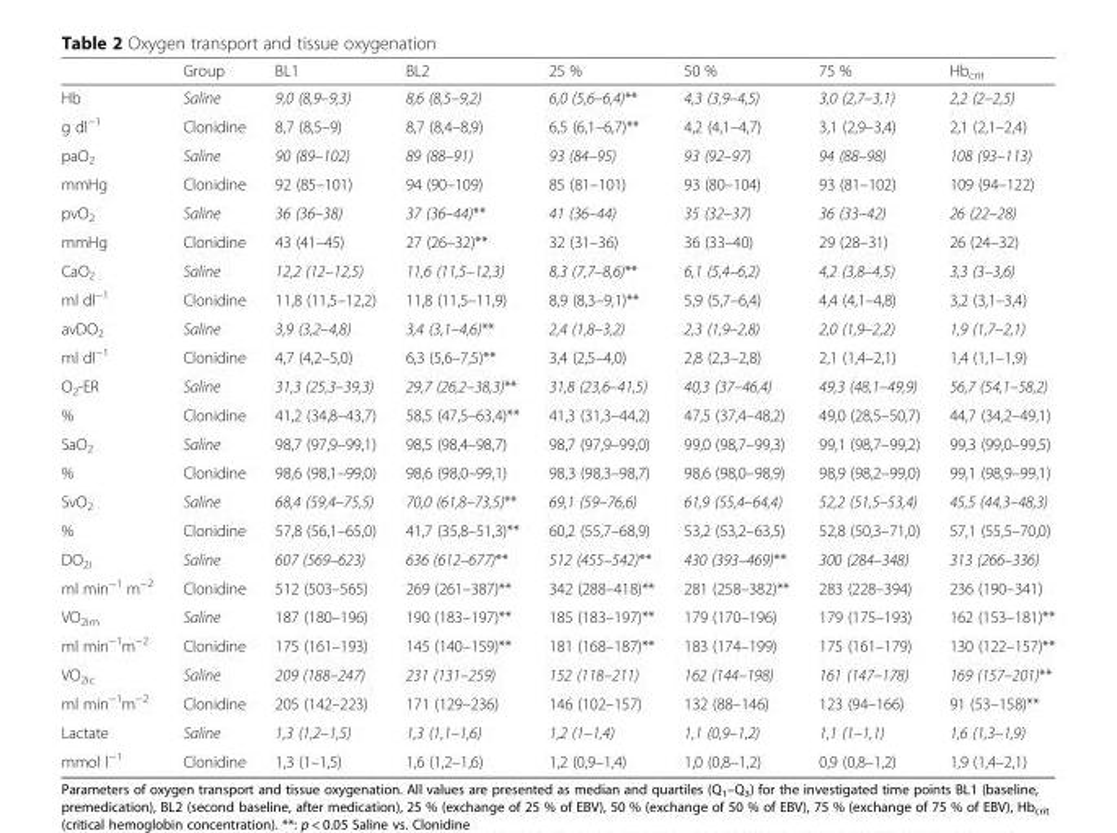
<table><thead><tr><td></td><td>Group</td><td>BL1</td><td>BL2</td><td>25 %</td><td>50 %</td><td>75 %</td><td>Hb<sub>crit</sub></td></tr></thead><tbody><tr><td>Hb</td><td>Saline</td><td>9,0 (8,9–9,3)</td><td>8,6 (8,5–9,2)</td><td>6,0 (5,6–6,4)**</td><td>4,3 (3,9–4,5)</td><td>3,0 (2,7–3,1)</td><td>2,2 (2–2,5)</td></tr><tr><td>g dl<sup>−1</sup></td><td>Clonidine</td><td>8,7 (8,5–9)</td><td>8,7 (8,4–8,9)</td><td>6,5 (6,1–6,7)**</td><td>4,2 (4,1–4,7)</td><td>3,1 (2,9–3,4)</td><td>2,1 (2,1–2,4)</td></tr><tr><td>paO<sub>2</sub></td><td>Saline</td><td>90 (89–102)</td><td>89 (88–91)</td><td>93 (84–95)</td><td>93 (92–97)</td><td>94 (88–98)</td><td>108 (93–113)</td></tr><tr><td>mmHg</td><td>Clonidine</td><td>92 (85–101)</td><td>94 (90–109)</td><td>85 (81–101)</td><td>93 (80–104)</td><td>93 (81–102)</td><td>109 (94–122)</td></tr><tr><td>pvO<sub>2</sub></td><td>Saline</td><td>36 (36–38)</td><td>37 (36–44)**</td><td>41 (36–44)</td><td>35 (32–37)</td><td>36 (33–42)</td><td>26 (22–28)</td></tr><tr><td>mmHg</td><td>Clonidine</td><td>43 (41–45)</td><td>27 (26–32)**</td><td>32 (31–36)</td><td>36 (33–40)</td><td>29 (28–31)</td><td>26 (24–32)</td></tr><tr><td>CaO<sub>2</sub></td><td>Saline</td><td>12,2 (12–12,5)</td><td>11,6 (11,5–12,3)</td><td>8,3 (7,7–8,6)**</td><td>6,1 (5,4–6,2)</td><td>4,2 (3,8–4,5)</td><td>3,3 (3–3,6)</td></tr><tr><td>ml dl<sup>−1</sup></td><td>Clonidine</td><td>11,8 (11,5–12,2)</td><td>11,8 (11,5–11,9)</td><td>8,9 (8,3–9,1)**</td><td>5,9 (5,7–6,4)</td><td>4,4 (4,1–4,8)</td><td>3,2 (3,1–3,4)</td></tr><tr><td>avDO<sub>2</sub></td><td>Saline</td><td>3,9 (3,2–4,8)</td><td>3,4 (3,1–4,6)**</td><td>2,4 (1,8–3,2)</td><td>2,3 (1,9–2,8)</td><td>2,0 (1,9–2,2)</td><td>1,9 (1,7–2,1)</td></tr><tr><td>ml dl<sup>−1</sup></td><td>Clonidine</td><td>4,7 (4,2–5,0)</td><td>6,3 (5,6–7,5)**</td><td>3,4 (2,5–4,0)</td><td>2,8 (2,3–2,8)</td><td>2,1 (1,4–2,1)</td><td>1,4 (1,1–1,9)</td></tr><tr><td>O<sub>2</sub>-ER</td><td>Saline</td><td>31,3 (25,3–39,3)</td><td>29,7 (26,2–38,3)**</td><td>31,8 (23,6–41,5)</td><td>40,3 (37–46,4)</td><td>49,3 (48,1–49,9)</td><td>56,7 (54,1–58,2)</td></tr><tr><td>%</td><td>Clonidine</td><td>41,2 (34,8–43,7)</td><td>58,5 (47,5–63,4)**</td><td>41,3 (31,3–44,2)</td><td>47,5 (37,4–48,2)</td><td>49,0 (28,5–50,7)</td><td>44,7 (34,2–49,1)</td></tr><tr><td>SaO<sub>2</sub></td><td>Saline</td><td>98,7 (97,9–99,1)</td><td>98,5 (98,4–98,7)</td><td>98,7 (97,9–99,0)</td><td>99,0 (98,7–99,3)</td><td>99,1 (98,7–99,2)</td><td>99,3 (99,0–99,5)</td></tr><tr><td>%</td><td>Clonidine</td><td>98,6 (98,1–99,0)</td><td>98,6 (98,0–99,1)</td><td>98,3 (98,3–98,7)</td><td>98,6 (98,0–98,9)</td><td>98,9 (98,2–99,0)</td><td>99,1 (98,9–99,1)</td></tr><tr><td>SvO<sub>2</sub></td><td>Saline</td><td>68,4 (59,4–75,5)</td><td>70,0 (61,8–73,5)**</td><td>69,1 (59–76,6)</td><td>61,9 (55,4–64,4)</td><td>52,2 (51,5–53,4)</td><td>45,5 (44,3–48,3)</td></tr><tr><td>%</td><td>Clonidine</td><td>57,8 (56,1–65,0)</td><td>41,7 (35,8–51,3)**</td><td>60,2 (55,7–68,9)</td><td>53,2 (53,2–63,5)</td><td>52,8 (50,3–71,0)</td><td>57,1 (55,5–70,0)</td></tr><tr><td>DO<sub>2i</sub></td><td>Saline</td><td>607 (569–623)</td><td>636 (612–677)**</td><td>512 (455–542)**</td><td>430 (393–469)**</td><td>300 (284–348)</td><td>313 (266–336)</td></tr><tr><td>ml min<sup>−1</sup> m<sup>−2</sup></td><td>Clonidine</td><td>512 (503–565)</td><td>269 (261–387)**</td><td>342 (288–418)**</td><td>281 (258–382)**</td><td>283 (228–394)</td><td>236 (190–341)</td></tr><tr><td>VO<sub>2im</sub></td><td>Saline</td><td>187 (180–196)</td><td>190 (183–197)**</td><td>185 (183–197)**</td><td>179 (170–196)</td><td>179 (175–193)</td><td>162 (153–181)**</td></tr><tr><td>ml min<sup>−1</sup>m<sup>−2</sup></td><td>Clonidine</td><td>175 (161–193)</td><td>145 (140–159)**</td><td>181 (168–187)**</td><td>183 (174–199)</td><td>175 (161–179)</td><td>130 (122–157)**</td></tr><tr><td>VO<sub>2ic</sub></td><td>Saline</td><td>209 (188–247)</td><td>231 (131–259)</td><td>152 (118–211)</td><td>162 (144–198)</td><td>161 (147–178)</td><td>169 (157–201)**</td></tr><tr><td>ml min<sup>−1</sup>m<sup>−2</sup></td><td>Clonidine</td><td>205 (142–223)</td><td>171 (129–236)</td><td>146 (102–157)</td><td>132 (88–146)</td><td>123 (94–166)</td><td>91 (53–158)**</td></tr><tr><td>Lactate</td><td>Saline</td><td>1,3 (1,2–1,5)</td><td>1,3 (1,1–1,6)</td><td>1,2 (1–1,4)</td><td>1,1 (0,9–1,2)</td><td>1,1 (1–1,1)</td><td>1,6 (1,3–1,9)</td></tr><tr><td>mmol l<sup>−1</sup></td><td>Clonidine</td><td>1,3 (1–1,5)</td><td>1,6 (1,2–1,6)</td><td>1,2 (0,9–1,4)</td><td>1,0 (0,8–1,2)</td><td>0,9 (0,8–1,2)</td><td>1,9 (1,4–2,1)</td></tr></tbody></table>